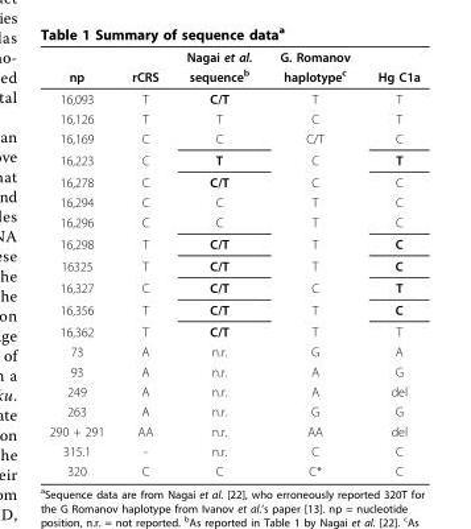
<table><thead><tr><td rowspan="2">np</td><td rowspan="2">rCRS</td><td rowspan="2">Nagai et al. sequence<sup>b</sup></td><td rowspan="2">G. Romanov haplotype<sup>c</sup></td><td rowspan="2">Hg C1a</td></tr><tr></tr></thead><tbody><tr><td>16,093</td><td>T</td><td>C/T</td><td>T</td><td>T</td></tr><tr><td>16,126</td><td>T</td><td>T</td><td>C</td><td>T</td></tr><tr><td>16,169</td><td>C</td><td>C</td><td>C/T</td><td>C</td></tr><tr><td>16,223</td><td>C</td><td>T</td><td>C</td><td>T</td></tr><tr><td>16,278</td><td>C</td><td>C/T</td><td>C</td><td>C</td></tr><tr><td>16,294</td><td>C</td><td>C</td><td>T</td><td>C</td></tr><tr><td>16,296</td><td>C</td><td>C</td><td>T</td><td>C</td></tr><tr><td>16,298</td><td>T</td><td>C/T</td><td>T</td><td>C</td></tr><tr><td>16325</td><td>T</td><td>C/T</td><td>T</td><td>C</td></tr><tr><td>16,327</td><td>C</td><td>C/T</td><td>C</td><td>T</td></tr><tr><td>16,356</td><td>T</td><td>C/T</td><td>T</td><td>C</td></tr><tr><td>16,362</td><td>T</td><td>C/T</td><td>T</td><td>T</td></tr><tr><td>73</td><td>A</td><td>n.r.</td><td>G</td><td>A</td></tr><tr><td>93</td><td>A</td><td>n.r.</td><td>A</td><td>G</td></tr><tr><td>249</td><td>A</td><td>n.r.</td><td>A</td><td>del</td></tr><tr><td>263</td><td>A</td><td>n.r.</td><td>G</td><td>G</td></tr><tr><td>290 + 291</td><td>AA</td><td>n.r.</td><td>AA</td><td>del</td></tr><tr><td>315.1</td><td>-</td><td>n.r.</td><td>C</td><td>C</td></tr><tr><td>320</td><td>C</td><td>C</td><td>C*</td><td>C</td></tr></tbody></table>